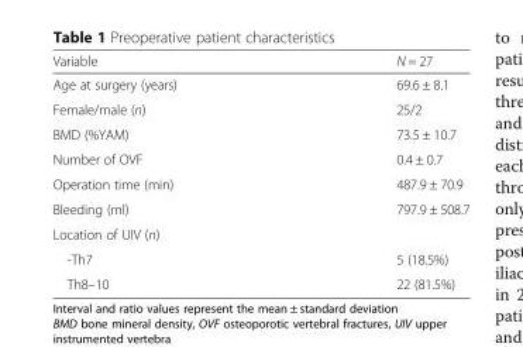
<table><thead><tr><td>Variable</td><td>N = 27</td></tr></thead><tbody><tr><td>Age at surgery (years)</td><td>69.6 ± 8.1</td></tr><tr><td>Female/male (n)</td><td>25/2</td></tr><tr><td>BMD (%YAM)</td><td>73.5 ± 10.7</td></tr><tr><td>Number of OVF</td><td>0.4 ± 0.7</td></tr><tr><td>Operation time (min)</td><td>487.9 ± 70.9</td></tr><tr><td>Bleeding (ml)</td><td>797.9 ± 508.7</td></tr><tr><td colspan="2">Location of UIV (n)</td></tr><tr><td>-Th7</td><td>5 (18.5%)</td></tr><tr><td>Th8–10</td><td>22 (81.5%)</td></tr></tbody></table>